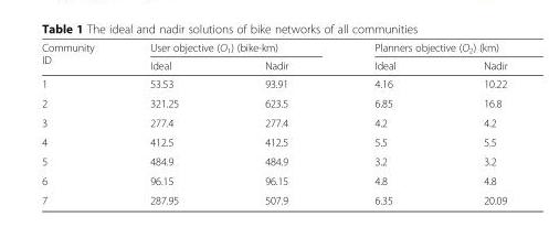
<table><thead><tr><td rowspan="2">Community ID</td><td colspan="2">User objective (O<sub>1</sub>) (bike-km)</td><td colspan="2">Planners objective (O<sub>2</sub>) (km)</td></tr><tr><td>Ideal</td><td>Nadir</td><td>Ideal</td><td>Nadir</td></tr></thead><tbody><tr><td>1</td><td>53.53</td><td>93.91</td><td>4.16</td><td>10.22</td></tr><tr><td>2</td><td>321.25</td><td>623.5</td><td>6.85</td><td>16.8</td></tr><tr><td>3</td><td>277.4</td><td>277.4</td><td>4.2</td><td>4.2</td></tr><tr><td>4</td><td>412.5</td><td>412.5</td><td>5.5</td><td>5.5</td></tr><tr><td>5</td><td>484.9</td><td>484.9</td><td>3.2</td><td>3.2</td></tr><tr><td>6</td><td>96.15</td><td>96.15</td><td>4.8</td><td>4.8</td></tr><tr><td>7</td><td>287.95</td><td>507.9</td><td>6.35</td><td>20.09</td></tr></tbody></table>